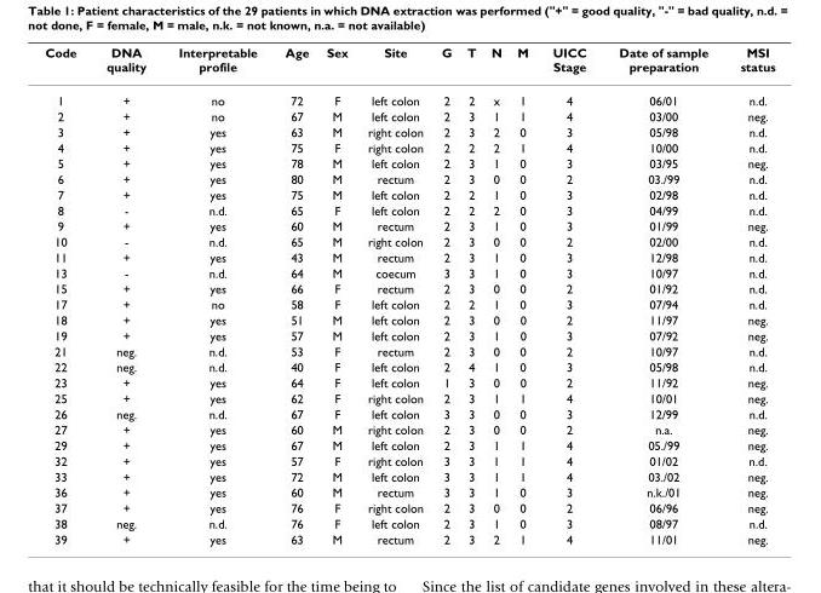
<table><thead><tr><td>Code</td><td>DNA quality</td><td>Interpretable profile</td><td>Age</td><td>Sex</td><td>Site</td><td>G</td><td>T</td><td>N</td><td>M</td><td>UICC Stage</td><td>Date of sample preparation</td><td>MSI status</td></tr></thead><tbody><tr><td>1</td><td>+</td><td>no</td><td>72</td><td>F</td><td>left colon</td><td>2</td><td>2</td><td>x</td><td>1</td><td>4</td><td>06/01</td><td>n.d.</td></tr><tr><td>2</td><td>+</td><td>no</td><td>67</td><td>M</td><td>left colon</td><td>2</td><td>3</td><td>1</td><td>1</td><td>4</td><td>03/00</td><td>neg.</td></tr><tr><td>3</td><td>+</td><td>yes</td><td>63</td><td>M</td><td>right colon</td><td>2</td><td>3</td><td>2</td><td>0</td><td>3</td><td>05/98</td><td>n.d.</td></tr><tr><td>4</td><td>+</td><td>yes</td><td>75</td><td>F</td><td>right colon</td><td>2</td><td>2</td><td>2</td><td>1</td><td>4</td><td>10/00</td><td>n.d.</td></tr><tr><td>5</td><td>+</td><td>yes</td><td>78</td><td>M</td><td>left colon</td><td>2</td><td>3</td><td>1</td><td>0</td><td>3</td><td>03/95</td><td>neg.</td></tr><tr><td>6</td><td>+</td><td>yes</td><td>80</td><td>M</td><td>rectum</td><td>2</td><td>3</td><td>0</td><td>0</td><td>2</td><td>03./99</td><td>n.d.</td></tr><tr><td>7</td><td>+</td><td>yes</td><td>75</td><td>M</td><td>left colon</td><td>2</td><td>2</td><td>1</td><td>0</td><td>3</td><td>02/98</td><td>n.d.</td></tr><tr><td>8</td><td>-</td><td>n.d.</td><td>65</td><td>F</td><td>left colon</td><td>2</td><td>2</td><td>2</td><td>0</td><td>3</td><td>04/99</td><td>n.d.</td></tr><tr><td>9</td><td>+</td><td>yes</td><td>60</td><td>M</td><td>rectum</td><td>2</td><td>3</td><td>1</td><td>0</td><td>3</td><td>01/99</td><td>neg.</td></tr><tr><td>10</td><td>-</td><td>n.d.</td><td>65</td><td>M</td><td>right colon</td><td>2</td><td>3</td><td>0</td><td>0</td><td>2</td><td>02/00</td><td>n.d.</td></tr><tr><td>11</td><td>+</td><td>yes</td><td>43</td><td>M</td><td>rectum</td><td>2</td><td>3</td><td>1</td><td>0</td><td>3</td><td>12/98</td><td>n.d.</td></tr><tr><td>13</td><td>-</td><td>n.d.</td><td>64</td><td>M</td><td>coecum</td><td>3</td><td>3</td><td>1</td><td>0</td><td>3</td><td>10/97</td><td>n.d.</td></tr><tr><td>15</td><td>+</td><td>yes</td><td>66</td><td>F</td><td>rectum</td><td>2</td><td>3</td><td>0</td><td>0</td><td>2</td><td>01/92</td><td>n.d.</td></tr><tr><td>17</td><td>+</td><td>no</td><td>58</td><td>F</td><td>left colon</td><td>2</td><td>2</td><td>1</td><td>0</td><td>3</td><td>07/94</td><td>n.d.</td></tr><tr><td>18</td><td>+</td><td>yes</td><td>51</td><td>M</td><td>left colon</td><td>2</td><td>3</td><td>0</td><td>0</td><td>2</td><td>11/97</td><td>neg.</td></tr><tr><td>19</td><td>+</td><td>yes</td><td>57</td><td>M</td><td>left colon</td><td>2</td><td>3</td><td>1</td><td>0</td><td>3</td><td>07/92</td><td>neg.</td></tr><tr><td>21</td><td>neg.</td><td>n.d.</td><td>53</td><td>F</td><td>rectum</td><td>2</td><td>3</td><td>0</td><td>0</td><td>2</td><td>10/97</td><td>n.d.</td></tr><tr><td>22</td><td>neg.</td><td>n.d.</td><td>40</td><td>F</td><td>left colon</td><td>2</td><td>4</td><td>1</td><td>0</td><td>3</td><td>05/98</td><td>n.d.</td></tr><tr><td>23</td><td>+</td><td>yes</td><td>64</td><td>F</td><td>left colon</td><td>1</td><td>3</td><td>0</td><td>0</td><td>2</td><td>11/92</td><td>neg.</td></tr><tr><td>25</td><td>+</td><td>yes</td><td>62</td><td>F</td><td>right colon</td><td>2</td><td>3</td><td>1</td><td>1</td><td>4</td><td>10/01</td><td>neg.</td></tr><tr><td>26</td><td>neg.</td><td>n.d.</td><td>67</td><td>F</td><td>left colon</td><td>3</td><td>3</td><td>0</td><td>0</td><td>3</td><td>12/99</td><td>n.d.</td></tr><tr><td>27</td><td>+</td><td>yes</td><td>60</td><td>M</td><td>right colon</td><td>2</td><td>3</td><td>0</td><td>0</td><td>2</td><td>n.a.</td><td>neg.</td></tr><tr><td>29</td><td>+</td><td>yes</td><td>67</td><td>M</td><td>left colon</td><td>2</td><td>3</td><td>1</td><td>1</td><td>4</td><td>05./99</td><td>neg.</td></tr><tr><td>32</td><td>+</td><td>yes</td><td>57</td><td>F</td><td>right colon</td><td>3</td><td>3</td><td>1</td><td>1</td><td>4</td><td>01/02</td><td>n.d.</td></tr><tr><td>33</td><td>+</td><td>yes</td><td>72</td><td>M</td><td>left colon</td><td>3</td><td>3</td><td>1</td><td>1</td><td>4</td><td>03./02</td><td>neg.</td></tr><tr><td>36</td><td>+</td><td>yes</td><td>60</td><td>M</td><td>rectum</td><td>3</td><td>3</td><td>1</td><td>0</td><td>3</td><td>n.k./01</td><td>neg.</td></tr><tr><td>37</td><td>+</td><td>yes</td><td>76</td><td>F</td><td>right colon</td><td>2</td><td>3</td><td>0</td><td>0</td><td>2</td><td>06/96</td><td>neg.</td></tr><tr><td>38</td><td>neg.</td><td>n.d.</td><td>76</td><td>F</td><td>left colon</td><td>2</td><td>3</td><td>1</td><td>0</td><td>3</td><td>08/97</td><td>n.d.</td></tr><tr><td>39</td><td>+</td><td>yes</td><td>63</td><td>M</td><td>rectum</td><td>2</td><td>3</td><td>2</td><td>1</td><td>4</td><td>11/01</td><td>neg.</td></tr></tbody></table>